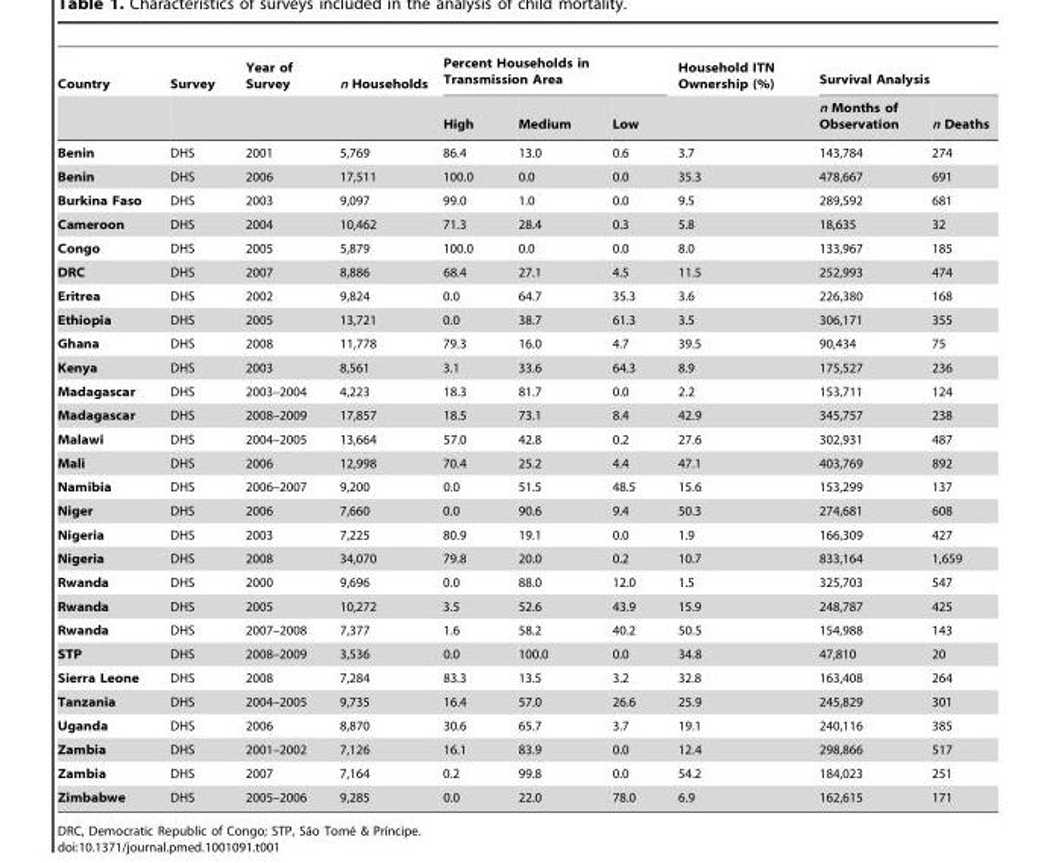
<table><thead><tr><td rowspan="2">Country</td><td rowspan="2">Survey</td><td rowspan="2">Year of Survey</td><td rowspan="2">n Households</td><td colspan="3">Percent Households in Transmission Area</td><td rowspan="2">Household ITN Ownership (%)</td><td colspan="2">Survival Analysis</td></tr><tr><td>High</td><td>Medium</td><td>Low</td><td>n Months of Observation</td><td>n Deaths</td></tr></thead><tbody><tr><td>Benin</td><td>DHS</td><td>2001</td><td>5,769</td><td>86.4</td><td>13.0</td><td>0.6</td><td>3.7</td><td>143,784</td><td>274</td></tr><tr><td>Benin</td><td>DHS</td><td>2006</td><td>17,511</td><td>100.0</td><td>0.0</td><td>0.0</td><td>35.3</td><td>478,667</td><td>691</td></tr><tr><td>Burkina Faso</td><td>DHS</td><td>2003</td><td>9,097</td><td>99.0</td><td>1.0</td><td>0.0</td><td>9.5</td><td>289,592</td><td>681</td></tr><tr><td>Cameroon</td><td>DHS</td><td>2004</td><td>10,462</td><td>71.3</td><td>28.4</td><td>0.3</td><td>5.8</td><td>18,635</td><td>32</td></tr><tr><td>Congo</td><td>DHS</td><td>2005</td><td>5,879</td><td>100.0</td><td>0.0</td><td>0.0</td><td>8.0</td><td>133,967</td><td>185</td></tr><tr><td>DRC</td><td>DHS</td><td>2007</td><td>8,886</td><td>68.4</td><td>27.1</td><td>4.5</td><td>11.5</td><td>252,993</td><td>474</td></tr><tr><td>Eritrea</td><td>DHS</td><td>2002</td><td>9,824</td><td>0.0</td><td>64.7</td><td>35.3</td><td>3.6</td><td>226,380</td><td>168</td></tr><tr><td>Ethiopia</td><td>DHS</td><td>2005</td><td>13,721</td><td>0.0</td><td>38.7</td><td>61.3</td><td>3.5</td><td>306,171</td><td>355</td></tr><tr><td>Ghana</td><td>DHS</td><td>2008</td><td>11,778</td><td>79.3</td><td>16.0</td><td>4.7</td><td>39.5</td><td>90,434</td><td>75</td></tr><tr><td>Kenya</td><td>DHS</td><td>2003</td><td>8,561</td><td>3.1</td><td>33.6</td><td>64.3</td><td>8.9</td><td>175,527</td><td>236</td></tr><tr><td>Madagascar</td><td>DHS</td><td>2003–2004</td><td>4,223</td><td>18.3</td><td>81.7</td><td>0.0</td><td>2.2</td><td>153,711</td><td>124</td></tr><tr><td>Madagascar</td><td>DHS</td><td>2008–2009</td><td>17,857</td><td>18.5</td><td>73.1</td><td>8.4</td><td>42.9</td><td>345,757</td><td>238</td></tr><tr><td>Malawi</td><td>DHS</td><td>2004–2005</td><td>13,664</td><td>57.0</td><td>42.8</td><td>0.2</td><td>27.6</td><td>302,931</td><td>487</td></tr><tr><td>Mali</td><td>DHS</td><td>2006</td><td>12,998</td><td>70.4</td><td>25.2</td><td>4.4</td><td>47.1</td><td>403,769</td><td>892</td></tr><tr><td>Namibia</td><td>DHS</td><td>2006–2007</td><td>9,200</td><td>0.0</td><td>51.5</td><td>48.5</td><td>15.6</td><td>153,299</td><td>137</td></tr><tr><td>Niger</td><td>DHS</td><td>2006</td><td>7,660</td><td>0.0</td><td>90.6</td><td>9.4</td><td>50.3</td><td>274,681</td><td>608</td></tr><tr><td>Nigeria</td><td>DHS</td><td>2003</td><td>7,225</td><td>80.9</td><td>19.1</td><td>0.0</td><td>1.9</td><td>166,309</td><td>427</td></tr><tr><td>Nigeria</td><td>DHS</td><td>2008</td><td>34,070</td><td>79.8</td><td>20.0</td><td>0.2</td><td>10.7</td><td>833,164</td><td>1,659</td></tr><tr><td>Rwanda</td><td>DHS</td><td>2000</td><td>9,696</td><td>0.0</td><td>88.0</td><td>12.0</td><td>1.5</td><td>325,703</td><td>547</td></tr><tr><td>Rwanda</td><td>DHS</td><td>2005</td><td>10,272</td><td>3.5</td><td>52.6</td><td>43.9</td><td>15.9</td><td>248,787</td><td>425</td></tr><tr><td>Rwanda</td><td>DHS</td><td>2007–2008</td><td>7,377</td><td>1.6</td><td>58.2</td><td>40.2</td><td>50.5</td><td>154,988</td><td>143</td></tr><tr><td>STP</td><td>DHS</td><td>2008–2009</td><td>3,536</td><td>0.0</td><td>100.0</td><td>0.0</td><td>34.8</td><td>47,810</td><td>20</td></tr><tr><td>Sierra Leone</td><td>DHS</td><td>2008</td><td>7,284</td><td>83.3</td><td>13.5</td><td>3.2</td><td>32.8</td><td>163,408</td><td>264</td></tr><tr><td>Tanzania</td><td>DHS</td><td>2004–2005</td><td>9,735</td><td>16.4</td><td>57.0</td><td>26.6</td><td>25.9</td><td>245,829</td><td>301</td></tr><tr><td>Uganda</td><td>DHS</td><td>2006</td><td>8,870</td><td>30.6</td><td>65.7</td><td>3.7</td><td>19.1</td><td>240,116</td><td>385</td></tr><tr><td>Zambia</td><td>DHS</td><td>2001–2002</td><td>7,126</td><td>16.1</td><td>83.9</td><td>0.0</td><td>12.4</td><td>298,866</td><td>517</td></tr><tr><td>Zambia</td><td>DHS</td><td>2007</td><td>7,164</td><td>0.2</td><td>99.8</td><td>0.0</td><td>54.2</td><td>184,023</td><td>251</td></tr><tr><td>Zimbabwe</td><td>DHS</td><td>2005–2006</td><td>9,285</td><td>0.0</td><td>22.0</td><td>78.0</td><td>6.9</td><td>162,615</td><td>171</td></tr></tbody></table>